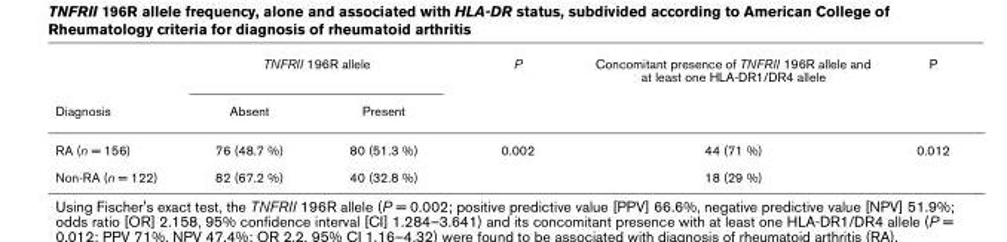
<table><thead><tr><td rowspan="2">Diagnosis</td><td colspan="2">TNFRII 196R allele</td><td rowspan="2">P</td><td rowspan="2">Concomitant presence of TNFRII 196R allele and at least one HLA-DR1/DR4 allele</td><td rowspan="2">P</td></tr><tr><td>Absent</td><td>Present</td></tr></thead><tbody><tr><td>RA (n = 156)</td><td>76 (48.7 %)</td><td>80 (51.3 %)</td><td>0.002</td><td>44 (71 %)</td><td>0.012</td></tr><tr><td>Non-RA (n = 122)</td><td>82 (67.2 %)</td><td>40 (32.8 %)</td><td></td><td>18 (29 %)</td><td></td></tr></tbody></table>